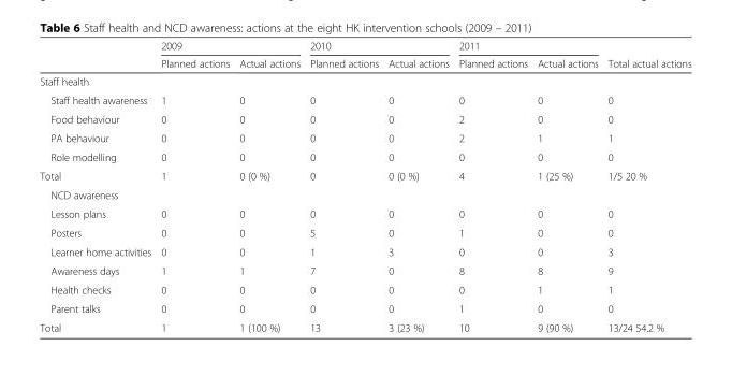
<table><thead><tr><td rowspan="2"></td><td colspan="2">2009</td><td colspan="2">2010</td><td colspan="2">2011</td><td rowspan="2">Total actual actions</td></tr><tr><td>Planned actions</td><td>Actual actions</td><td>Planned actions</td><td>Actual actions</td><td>Planned actions</td><td>Actual actions</td></tr></thead><tbody><tr><td colspan="8">Staff health</td></tr><tr><td>Staff health awareness</td><td>1</td><td>0</td><td>0</td><td>0</td><td>0</td><td>0</td><td>0</td></tr><tr><td>Food behaviour</td><td>0</td><td>0</td><td>0</td><td>0</td><td>2</td><td>0</td><td>0</td></tr><tr><td>PA behaviour</td><td>0</td><td>0</td><td>0</td><td>0</td><td>2</td><td>1</td><td>1</td></tr><tr><td>Role modelling</td><td>0</td><td>0</td><td>0</td><td>0</td><td>0</td><td>0</td><td>0</td></tr><tr><td>Total</td><td>1</td><td>0 (0 %)</td><td>0</td><td>0 (0 %)</td><td>4</td><td>1 (25 %)</td><td>1/5 20 %</td></tr><tr><td colspan="8">NCD awareness</td></tr><tr><td>Lesson plans</td><td>0</td><td>0</td><td>0</td><td>0</td><td>0</td><td>0</td><td>0</td></tr><tr><td>Posters</td><td>0</td><td>0</td><td>5</td><td>0</td><td>1</td><td>0</td><td>0</td></tr><tr><td>Learner home activities</td><td>0</td><td>0</td><td>1</td><td>3</td><td>0</td><td>0</td><td>3</td></tr><tr><td>Awareness days</td><td>1</td><td>1</td><td>7</td><td>0</td><td>8</td><td>8</td><td>9</td></tr><tr><td>Health checks</td><td>0</td><td>0</td><td>0</td><td>0</td><td>0</td><td>1</td><td>1</td></tr><tr><td>Parent talks</td><td>0</td><td>0</td><td>0</td><td>0</td><td>1</td><td>0</td><td>0</td></tr><tr><td>Total</td><td>1</td><td>1 (100 %)</td><td>13</td><td>3 (23 %)</td><td>10</td><td>9 (90 %)</td><td>13/24 54.2 %</td></tr></tbody></table>